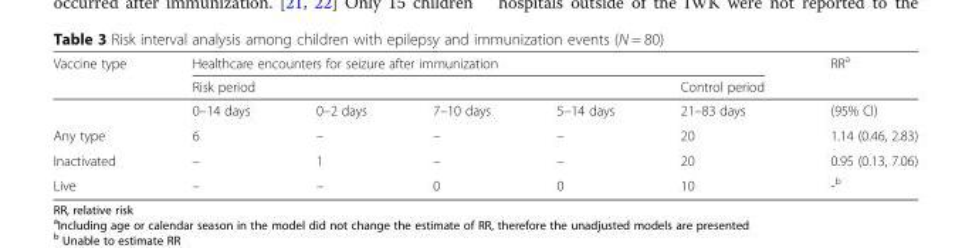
<table><thead><tr><td rowspan="3">Vaccine type</td><td colspan="5">Healthcare encounters for seizure after immunization</td><td rowspan="3">RR<sup>a</sup> (95% CI)</td></tr><tr><td colspan="4">Risk period</td><td rowspan="2">Control period 21–83 days</td></tr><tr><td>0–14 days</td><td>0–2 days</td><td>7–10 days</td><td>5–14 days</td></tr></thead><tbody><tr><td>Any type</td><td>6</td><td>–</td><td>–</td><td>–</td><td>20</td><td>1.14 (0.46, 2.83)</td></tr><tr><td>Inactivated</td><td>–</td><td>1</td><td>–</td><td>–</td><td>20</td><td>0.95 (0.13, 7.06)</td></tr><tr><td>Live</td><td>–</td><td>–</td><td>0</td><td>0</td><td>10</td><td>-<sup>b</sup></td></tr></tbody></table>